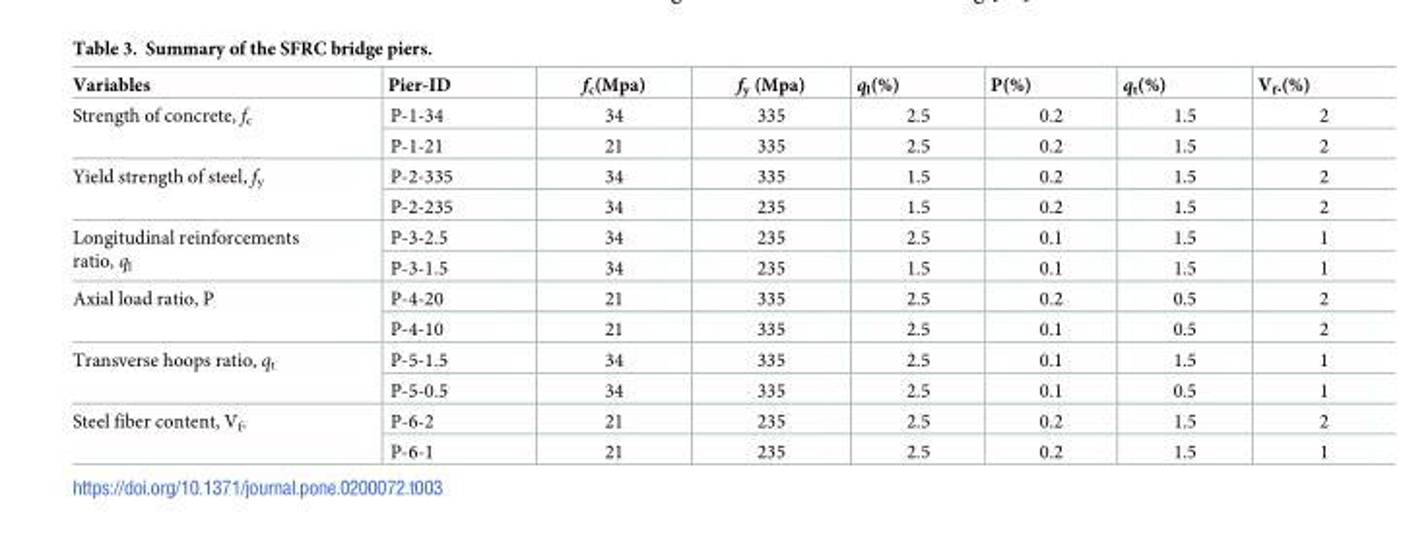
<table><thead><tr><td>Variables</td><td>Pier-ID</td><td>f<sub>c</sub>(Mpa)</td><td>f<sub>y</sub> (Mpa)</td><td>q<sub>l</sub>(%)</td><td>P(%)</td><td>q<sub>t</sub>(%)</td><td>V<sub>f</sub>.(%)</td></tr></thead><tbody><tr><td rowspan="2">Strength of concrete, f<sub>c</sub></td><td>P-1-34</td><td>34</td><td>335</td><td>2.5</td><td>0.2</td><td>1.5</td><td>2</td></tr><tr><td>P-1-21</td><td>21</td><td>335</td><td>2.5</td><td>0.2</td><td>1.5</td><td>2</td></tr><tr><td rowspan="2">Yield strength of steel, f<sub>y</sub></td><td>P-2-335</td><td>34</td><td>335</td><td>1.5</td><td>0.2</td><td>1.5</td><td>2</td></tr><tr><td>P-2-235</td><td>34</td><td>235</td><td>1.5</td><td>0.2</td><td>1.5</td><td>2</td></tr><tr><td rowspan="2">Longitudinal reinforcements ratio, q<sub>l</sub></td><td>P-3-2.5</td><td>34</td><td>235</td><td>2.5</td><td>0.1</td><td>1.5</td><td>1</td></tr><tr><td>P-3-1.5</td><td>34</td><td>235</td><td>1.5</td><td>0.1</td><td>1.5</td><td>1</td></tr><tr><td rowspan="2">Axial load ratio, P</td><td>P-4-20</td><td>21</td><td>335</td><td>2.5</td><td>0.2</td><td>0.5</td><td>2</td></tr><tr><td>P-4-10</td><td>21</td><td>335</td><td>2.5</td><td>0.1</td><td>0.5</td><td>2</td></tr><tr><td rowspan="2">Transverse hoops ratio, q<sub>t</sub></td><td>P-5-1.5</td><td>34</td><td>335</td><td>2.5</td><td>0.1</td><td>1.5</td><td>1</td></tr><tr><td>P-5-0.5</td><td>34</td><td>335</td><td>2.5</td><td>0.1</td><td>0.5</td><td>1</td></tr><tr><td rowspan="2">Steel fiber content, V<sub>f</sub>.</td><td>P-6-2</td><td>21</td><td>235</td><td>2.5</td><td>0.2</td><td>1.5</td><td>2</td></tr><tr><td>P-6-1</td><td>21</td><td>235</td><td>2.5</td><td>0.2</td><td>1.5</td><td>1</td></tr></tbody></table>